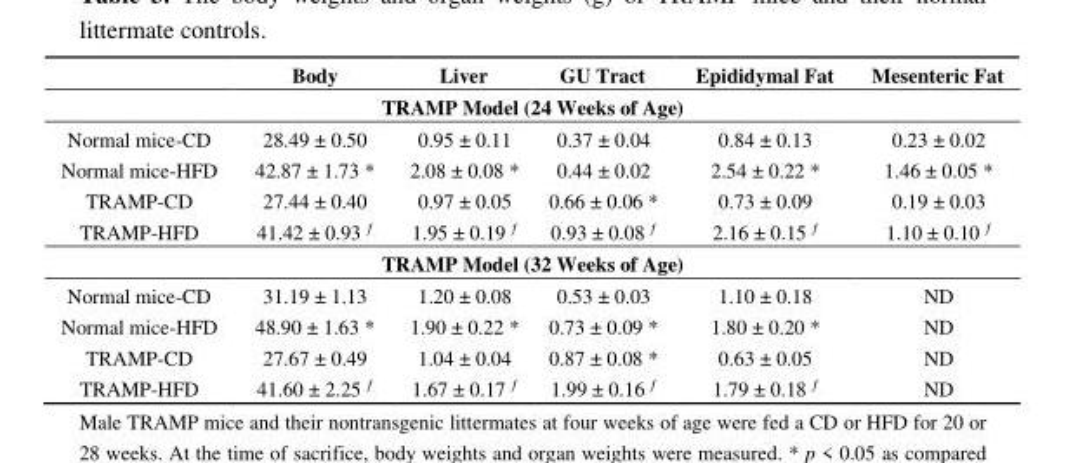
<table><thead><tr><td></td><td>Body</td><td>Liver</td><td>GU Tract</td><td>Epididymal Fat</td><td>Mesenteric Fat</td></tr></thead><tbody><tr><td colspan="6">TRAMP Model (24 Weeks of Age)</td></tr><tr><td>Normal mice-CD</td><td>28.49 ± 0.50</td><td>0.95 ± 0.11</td><td>0.37 ± 0.04</td><td>0.84 ± 0.13</td><td>0.23 ± 0.02</td></tr><tr><td>Normal mice-HFD</td><td>42.87 ± 1.73 *</td><td>2.08 ± 0.08 *</td><td>0.44 ± 0.02</td><td>2.54 ± 0.22 *</td><td>1.46 ± 0.05 *</td></tr><tr><td>TRAMP-CD</td><td>27.44 ± 0.40</td><td>0.97 ± 0.05</td><td>0.66 ± 0.06 *</td><td>0.73 ± 0.09</td><td>0.19 ± 0.03</td></tr><tr><td>TRAMP-HFD</td><td>41.42 ± 0.93 ƒ</td><td>1.95 ± 0.19 ƒ</td><td>0.93 ± 0.08 ƒ</td><td>2.16 ± 0.15 ƒ</td><td>1.10 ± 0.10 ƒ</td></tr><tr><td colspan="6">TRAMP Model (32 Weeks of Age)</td></tr><tr><td>Normal mice-CD</td><td>31.19 ± 1.13</td><td>1.20 ± 0.08</td><td>0.53 ± 0.03</td><td>1.10 ± 0.18</td><td>ND</td></tr><tr><td>Normal mice-HFD</td><td>48.90 ± 1.63 *</td><td>1.90 ± 0.22 *</td><td>0.73 ± 0.09 *</td><td>1.80 ± 0.20 *</td><td>ND</td></tr><tr><td>TRAMP-CD</td><td>27.67 ± 0.49</td><td>1.04 ± 0.04</td><td>0.87 ± 0.08 *</td><td>0.63 ± 0.05</td><td>ND</td></tr><tr><td>TRAMP-HFD</td><td>41.60 ± 2.25 ƒ</td><td>1.67 ± 0.17 ƒ</td><td>1.99 ± 0.16 ƒ</td><td>1.79 ± 0.18 ƒ</td><td>ND</td></tr></tbody></table>